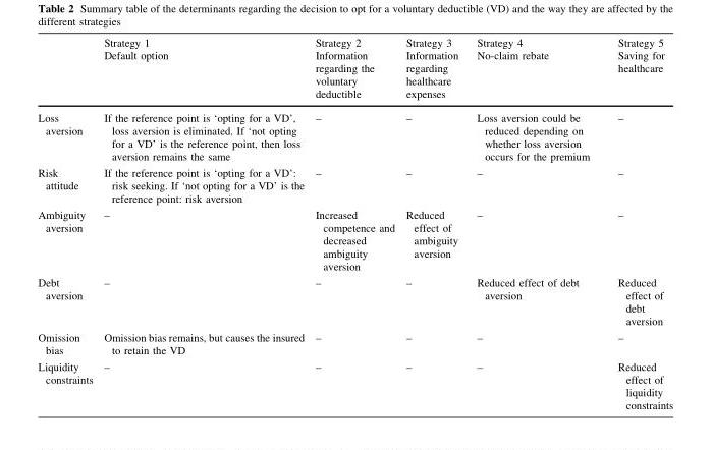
<table><thead><tr><td rowspan="2"></td><td rowspan="2">Strategy 1 Default option</td><td rowspan="2">Strategy 2 Information regarding the voluntary deductible</td><td rowspan="2">Strategy 3 Information regarding healthcare expenses</td><td rowspan="2">Strategy 4 No-claim rebate</td><td rowspan="2">Strategy 5 Saving for healthcare</td></tr><tr></tr></thead><tbody><tr><td>Loss aversion</td><td>If the reference point is ‘opting for a VD’, loss aversion is eliminated. If ‘not opting for a VD’ is the reference point, then loss aversion remains the same</td><td>–</td><td>–</td><td>Loss aversion could be reduced depending on whether loss aversion occurs for the premium</td><td>–</td></tr><tr><td>Risk attitude</td><td>If the reference point is ‘opting for a VD’: risk seeking. If ‘not opting for a VD’ is the reference point: risk aversion</td><td>–</td><td>–</td><td>–</td><td>–</td></tr><tr><td>Ambiguity aversion</td><td>–</td><td>Increased competence and decreased ambiguity aversion</td><td>Reduced effect of ambiguity aversion</td><td>–</td><td>–</td></tr><tr><td>Debt aversion</td><td>–</td><td>–</td><td>–</td><td>Reduced effect of debt aversion</td><td>Reduced effect of debt aversion</td></tr><tr><td>Omission bias</td><td>Omission bias remains, but causes the insured to retain the VD</td><td>–</td><td>–</td><td>–</td><td>–</td></tr><tr><td>Liquidity constraints</td><td>–</td><td>–</td><td>–</td><td>–</td><td>Reduced effect of liquidity constraints</td></tr></tbody></table>